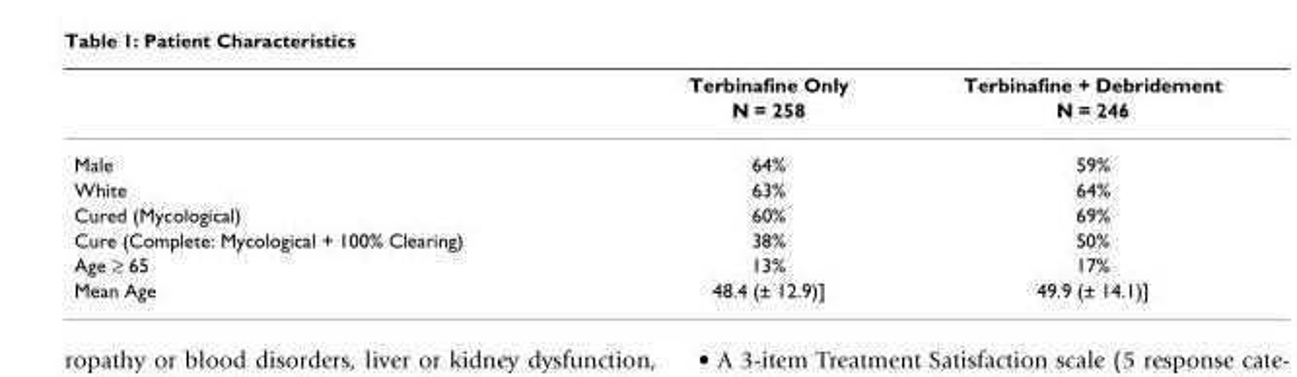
<table><thead><tr><td rowspan="2"></td><td rowspan="2">Terbinafine Only N = 258</td><td rowspan="2">Terbinafine + Debridement N = 246</td></tr><tr></tr></thead><tbody><tr><td>Male</td><td>64%</td><td>59%</td></tr><tr><td>White</td><td>63%</td><td>64%</td></tr><tr><td>Cured (Mycological)</td><td>60%</td><td>69%</td></tr><tr><td>Cure (Complete: Mycological + 100% Clearing)</td><td>38%</td><td>50%</td></tr><tr><td>Age ≥ 65</td><td>13%</td><td>17%</td></tr><tr><td>Mean Age</td><td>48.4 (± 12.9)]</td><td>49.9 (± 14.1)]</td></tr></tbody></table>